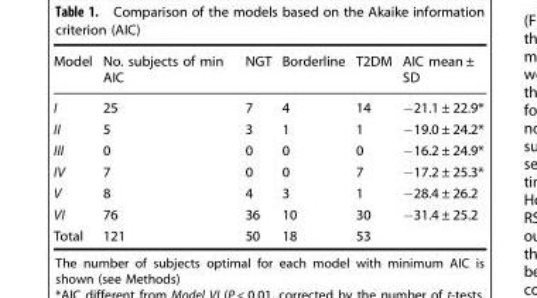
<table><thead><tr><td>Model</td><td>No. subjects of min AIC</td><td>NGT</td><td>Borderline</td><td>T2DM</td><td>AIC mean ± SD</td></tr></thead><tbody><tr><td>I</td><td>25</td><td>7</td><td>4</td><td>14</td><td>−21.1 ± 22.9*</td></tr><tr><td>II</td><td>5</td><td>3</td><td>1</td><td>1</td><td>−19.0 ± 24.2*</td></tr><tr><td>III</td><td>0</td><td>0</td><td>0</td><td>0</td><td>−16.2 ± 24.9*</td></tr><tr><td>IV</td><td>7</td><td>0</td><td>0</td><td>7</td><td>−17.2 ± 25.3*</td></tr><tr><td>V</td><td>8</td><td>4</td><td>3</td><td>1</td><td>−28.4 ± 26.2</td></tr><tr><td>VI</td><td>76</td><td>36</td><td>10</td><td>30</td><td>−31.4 ± 25.2</td></tr><tr><td>Total</td><td>121</td><td>50</td><td>18</td><td>53</td><td></td></tr></tbody></table>